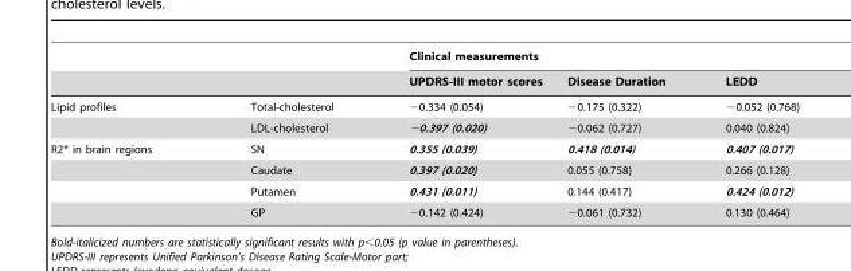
<table><thead><tr><td rowspan="2"></td><td rowspan="2"></td><td colspan="3">Clinical measurements</td></tr><tr><td>UPDRS-III motor scores</td><td>Disease Duration</td><td>LEDD</td></tr></thead><tbody><tr><td rowspan="2">Lipid profiles</td><td>Total-cholesterol</td><td>−0.334 (0.054)</td><td>−0.175 (0.322)</td><td>−0.052 (0.768)</td></tr><tr><td>LDL-cholesterol</td><td>−0.397 (0.020)</td><td>−0.062 (0.727)</td><td>0.040 (0.824)</td></tr><tr><td rowspan="4">R2* in brain regions</td><td>SN</td><td>0.355 (0.039)</td><td>0.418 (0.014)</td><td>0.407 (0.017)</td></tr><tr><td>Caudate</td><td>0.397 (0.020)</td><td>0.055 (0.758)</td><td>0.266 (0.128)</td></tr><tr><td>Putamen</td><td>0.431 (0.011)</td><td>0.144 (0.417)</td><td>0.424 (0.012)</td></tr><tr><td>GP</td><td>−0.142 (0.424)</td><td>−0.061 (0.732)</td><td>0.130 (0.464)</td></tr></tbody></table>